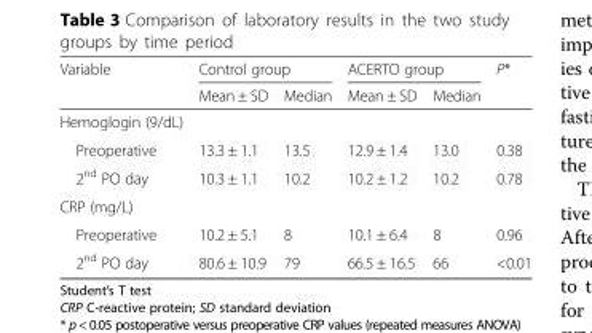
<table><thead><tr><td rowspan="2">Variable</td><td colspan="2">Control group</td><td colspan="2">ACERTO group</td><td rowspan="2">P*</td></tr><tr><td>Mean ± SD</td><td>Median</td><td>Mean ± SD</td><td>Median</td></tr></thead><tbody><tr><td colspan="6">Hemoglogin (9/dL)</td></tr><tr><td>Preoperative</td><td>13.3 ± 1.1</td><td>13.5</td><td>12.9 ± 1.4</td><td>13.0</td><td>0.38</td></tr><tr><td>2<sup>nd</sup> PO day</td><td>10.3 ± 1.1</td><td>10.2</td><td>10.2 ± 1.2</td><td>10.2</td><td>0.78</td></tr><tr><td colspan="6">CRP (mg/L)</td></tr><tr><td>Preoperative</td><td>10.2 ± 5.1</td><td>8</td><td>10.1 ± 6.4</td><td>8</td><td>0.96</td></tr><tr><td>2<sup>nd</sup> PO day</td><td>80.6 ± 10.9</td><td>79</td><td>66.5 ± 16.5</td><td>66</td><td>&lt;0.01</td></tr></tbody></table>